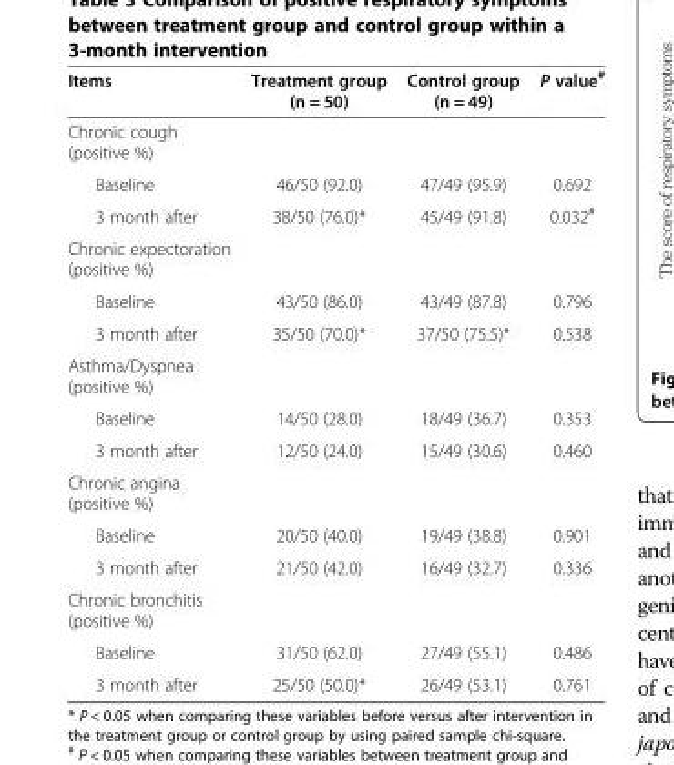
<table><thead><tr><td>Items</td><td>Treatment group (n = 50)</td><td>Control group (n = 49)</td><td>P value<sup>#</sup></td></tr></thead><tbody><tr><td colspan="4">Chronic cough (positive %)</td></tr><tr><td>Baseline</td><td>46/50 (92.0)</td><td>47/49 (95.9)</td><td>0.692</td></tr><tr><td>3 month after</td><td>38/50 (76.0)*</td><td>45/49 (91.8)</td><td>0.032<sup>#</sup></td></tr><tr><td colspan="4">Chronic expectoration (positive %)</td></tr><tr><td>Baseline</td><td>43/50 (86.0)</td><td>43/49 (87.8)</td><td>0.796</td></tr><tr><td>3 month after</td><td>35/50 (70.0)*</td><td>37/50 (75.5)*</td><td>0.538</td></tr><tr><td colspan="4">Asthma/Dyspnea (positive %)</td></tr><tr><td>Baseline</td><td>14/50 (28.0)</td><td>18/49 (36.7)</td><td>0.353</td></tr><tr><td>3 month after</td><td>12/50 (24.0)</td><td>15/49 (30.6)</td><td>0.460</td></tr><tr><td colspan="4">Chronic angina (positive %)</td></tr><tr><td>Baseline</td><td>20/50 (40.0)</td><td>19/49 (38.8)</td><td>0.901</td></tr><tr><td>3 month after</td><td>21/50 (42.0)</td><td>16/49 (32.7)</td><td>0.336</td></tr><tr><td colspan="4">Chronic bronchitis (positive %)</td></tr><tr><td>Baseline</td><td>31/50 (62.0)</td><td>27/49 (55.1)</td><td>0.486</td></tr><tr><td>3 month after</td><td>25/50 (50.0)*</td><td>26/49 (53.1)</td><td>0.761</td></tr></tbody></table>